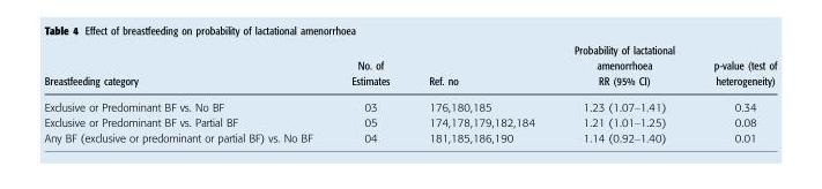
<table><thead><tr><td>Breastfeeding category</td><td>No. of Estimates</td><td>Ref. no</td><td>Probability of lactational amenorrhoea RR (95% CI)</td><td>p-value (test of heterogeneity)</td></tr></thead><tbody><tr><td>Exclusive or Predominant BF vs. No BF</td><td>03</td><td>176,180,185</td><td>1.23 (1.07–1.41)</td><td>0.34</td></tr><tr><td>Exclusive or Predominant BF vs. Partial BF</td><td>05</td><td>174,178,179,182,184</td><td>1.21 (1.01–1.25)</td><td>0.08</td></tr><tr><td>Any BF (exclusive or predominant or partial BF) vs. No BF</td><td>04</td><td>181,185,186,190</td><td>1.14 (0.92–1.40)</td><td>0.01</td></tr></tbody></table>